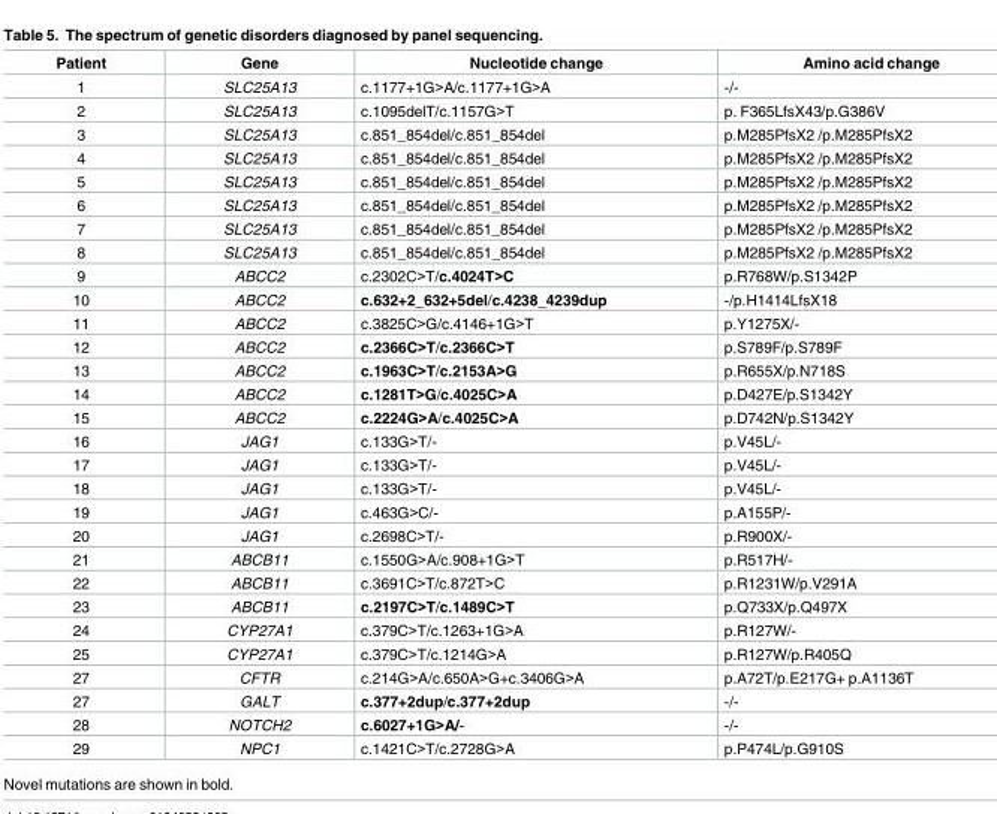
<table><thead><tr><td>Patient</td><td>Gene</td><td>Nucleotide change</td><td>Amino acid change</td></tr></thead><tbody><tr><td>1</td><td>SLC25A13</td><td>c.1177+1G&gt;A/c.1177+1G&gt;A</td><td>-/-</td></tr><tr><td>2</td><td>SLC25A13</td><td>c.1095delT/c.1157G&gt;T</td><td>p. F365LfsX43/p.G386V</td></tr><tr><td>3</td><td>SLC25A13</td><td>c.851_854del/c.851_854del</td><td>p.M285PfsX2 /p.M285PfsX2</td></tr><tr><td>4</td><td>SLC25A13</td><td>c.851_854del/c.851_854del</td><td>p.M285PfsX2 /p.M285PfsX2</td></tr><tr><td>5</td><td>SLC25A13</td><td>c.851_854del/c.851_854del</td><td>p.M285PfsX2 /p.M285PfsX2</td></tr><tr><td>6</td><td>SLC25A13</td><td>c.851_854del/c.851_854del</td><td>p.M285PfsX2 /p.M285PfsX2</td></tr><tr><td>7</td><td>SLC25A13</td><td>c.851_854del/c.851_854del</td><td>p.M285PfsX2 /p.M285PfsX2</td></tr><tr><td>8</td><td>SLC25A13</td><td>c.851_854del/c.851_854del</td><td>p.M285PfsX2 /p.M285PfsX2</td></tr><tr><td>9</td><td>ABCC2</td><td>c.2302C&gt;T/c.4024T&gt;C</td><td>p.R768W/p.S1342P</td></tr><tr><td>10</td><td>ABCC2</td><td>c.632+2_632+5del/c.4238_4239dup</td><td>-/p.H1414LfsX18</td></tr><tr><td>11</td><td>ABCC2</td><td>c.3825C&gt;G/c.4146+1G&gt;T</td><td>p.Y1275X/-</td></tr><tr><td>12</td><td>ABCC2</td><td>c.2366C&gt;T/c.2366C&gt;T</td><td>p.S789F/p.S789F</td></tr><tr><td>13</td><td>ABCC2</td><td>c.1963C&gt;T/c.2153A&gt;G</td><td>p.R655X/p.N718S</td></tr><tr><td>14</td><td>ABCC2</td><td>c.1281T&gt;G/c.4025C&gt;A</td><td>p.D427E/p.S1342Y</td></tr><tr><td>15</td><td>ABCC2</td><td>c.2224G&gt;A/c.4025C&gt;A</td><td>p.D742N/p.S1342Y</td></tr><tr><td>16</td><td>JAG1</td><td>c.133G&gt;T/-</td><td>p.V45L/-</td></tr><tr><td>17</td><td>JAG1</td><td>c.133G&gt;T/-</td><td>p.V45L/-</td></tr><tr><td>18</td><td>JAG1</td><td>c.133G&gt;T/-</td><td>p.V45L/-</td></tr><tr><td>19</td><td>JAG1</td><td>c.463G&gt;C/-</td><td>p.A155P/-</td></tr><tr><td>20</td><td>JAG1</td><td>c.2698C&gt;T/-</td><td>p.R900X/-</td></tr><tr><td>21</td><td>ABCB11</td><td>c.1550G&gt;A/c.908+1G&gt;T</td><td>p.R517H/-</td></tr><tr><td>22</td><td>ABCB11</td><td>c.3691C&gt;T/c.872T&gt;C</td><td>p.R1231W/p.V291A</td></tr><tr><td>23</td><td>ABCB11</td><td>c.2197C&gt;T/c.1489C&gt;T</td><td>p.Q733X/p.Q497X</td></tr><tr><td>24</td><td>CYP27A1</td><td>c.379C&gt;T/c.1263+1G&gt;A</td><td>p.R127W/-</td></tr><tr><td>25</td><td>CYP27A1</td><td>c.379C&gt;T/c.1214G&gt;A</td><td>p.R127W/p.R405Q</td></tr><tr><td>27</td><td>CFTR</td><td>c.214G&gt;A/c.650A&gt;G+c.3406G&gt;A</td><td>p.A72T/p.E217G+ p.A1136T</td></tr><tr><td>27</td><td>GALT</td><td>c.377+2dup/c.377+2dup</td><td>-/-</td></tr><tr><td>28</td><td>NOTCH2</td><td>c.6027+1G&gt;A/-</td><td>-/-</td></tr><tr><td>29</td><td>NPC1</td><td>c.1421C&gt;T/c.2728G&gt;A</td><td>p.P474L/p.G910S</td></tr></tbody></table>